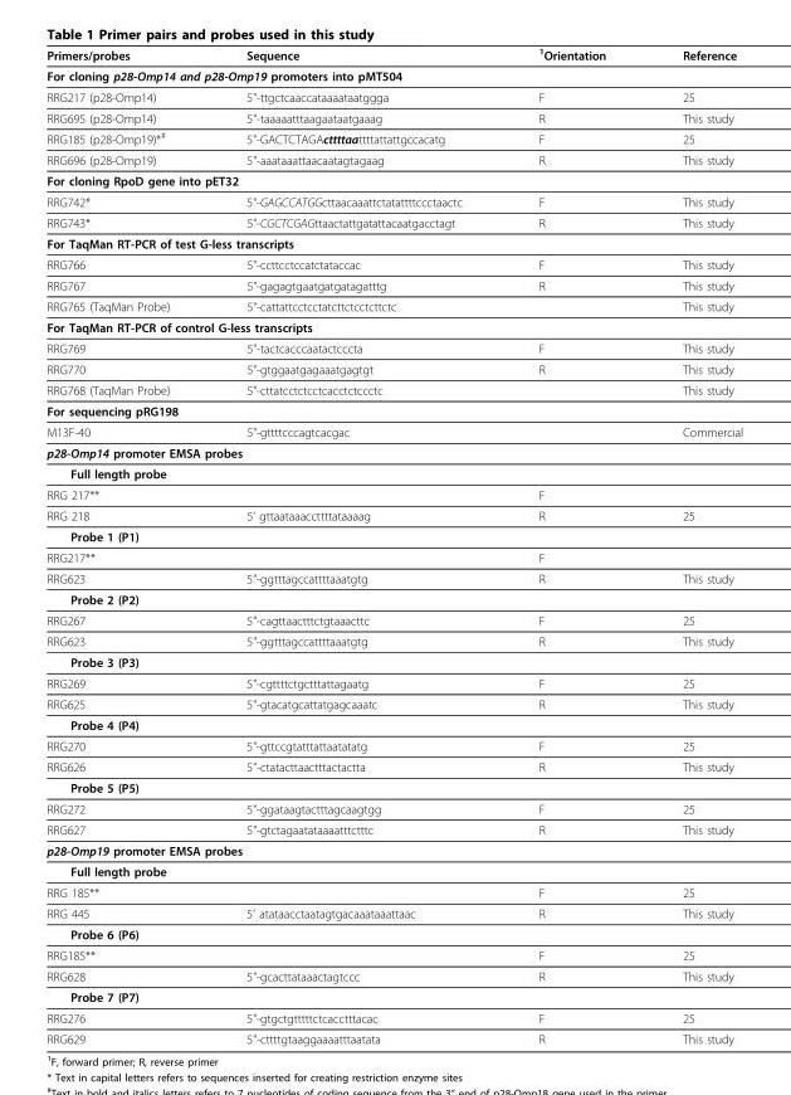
<table><thead><tr><td>Primers/probes</td><td>Sequence</td><td><sup>1</sup>Orientation</td><td>Reference</td></tr></thead><tbody><tr><td colspan="4">For cloning p28-Omp14 and p28-Omp19 promoters into pMT504</td></tr><tr><td>RRG217 (p28-Omp14)</td><td>5&quot;-ttgctcaaccataaaataatggga</td><td>F</td><td>25</td></tr><tr><td>RRG695 (p28-Omp14)</td><td>5&quot;-taaaaatttaagaataatgaaag</td><td>R</td><td>This study</td></tr><tr><td>RRG185 (p28-Omp19)*<sup>#</sup></td><td>5&quot;-GACTCTAGActtttaattttattattgccacatg</td><td>F</td><td>25</td></tr><tr><td>RRG696 (p28-Omp19)</td><td>5&quot;-aaataaattaacaatagtagaag</td><td>R</td><td>This study</td></tr><tr><td colspan="4">For cloning RpoD gene into pET32</td></tr><tr><td>RRG742*</td><td>5&quot;-GAGCCATGGcttaacaaattctatattttccctaactc</td><td>F</td><td>This study</td></tr><tr><td>RRG743*</td><td>5&quot;-CGCTCGAGttaactattgatattacaatgacctagt</td><td>R</td><td>This study</td></tr><tr><td colspan="4">For TaqMan RT-PCR of test G-less transcripts</td></tr><tr><td>RRG766</td><td>5&quot;-ccttcctccatctataccac</td><td>F</td><td>This study</td></tr><tr><td>RRG767</td><td>5&quot;-gagagtgaatgatgatagatttg</td><td>R</td><td>This study</td></tr><tr><td>RRG765 (TaqMan Probe)</td><td>5&quot;-cattattcctcctatcttctcctcttctc</td><td></td><td>This study</td></tr><tr><td colspan="4">For TaqMan RT-PCR of control G-less transcripts</td></tr><tr><td>RRG769</td><td>5&quot;-tactcacccaatactcccta</td><td>F</td><td>This study</td></tr><tr><td>RRG770</td><td>5&quot;-gtggaatgagaaatgagtgt</td><td>R</td><td>This study</td></tr><tr><td>RRG768 (TaqMan Probe)</td><td>5&quot;-cttatcctctcctcacctctccctc</td><td></td><td>This study</td></tr><tr><td colspan="4">For sequencing pRG198</td></tr><tr><td>M13F-40</td><td>5&quot;-gttttcccagtcacgac</td><td></td><td>Commercial</td></tr><tr><td colspan="4">p28-Omp14 promoter EMSA probes</td></tr><tr><td colspan="4">Full length probe</td></tr><tr><td>RRG 217**</td><td></td><td>F</td><td></td></tr><tr><td>RRG 218</td><td>5’ gttaataaaccttttataaaag</td><td>R</td><td>25</td></tr><tr><td colspan="4">Probe 1 (P1)</td></tr><tr><td>RRG217**</td><td></td><td>F</td><td></td></tr><tr><td>RRG623</td><td>5&quot;-ggtttagccattttaaatgtg</td><td>R</td><td>This study</td></tr><tr><td colspan="4">Probe 2 (P2)</td></tr><tr><td>RRG267</td><td>5&quot;-cagttaactttctgtaaacttc</td><td>F</td><td>25</td></tr><tr><td>RRG623</td><td>5&quot;-ggtttagccattttaaatgtg</td><td>R</td><td>This study</td></tr><tr><td colspan="4">Probe 3 (P3)</td></tr><tr><td>RRG269</td><td>5&quot;-cgttttctgctttattagaatg</td><td>F</td><td>25</td></tr><tr><td>RRG625</td><td>5&quot;-gtacatgcattatgagcaaatc</td><td>R</td><td>This study</td></tr><tr><td colspan="4">Probe 4 (P4)</td></tr><tr><td>RRG270</td><td>5&quot;-gttccgtatttattaatatatg</td><td>F</td><td>25</td></tr><tr><td>RRG626</td><td>5&quot;-ctatacttaactttactactta</td><td>R</td><td>This study</td></tr><tr><td colspan="4">Probe 5 (P5)</td></tr><tr><td>RRG272</td><td>5&quot;-ggataagtactttagcaagtgg</td><td>F</td><td>25</td></tr><tr><td>RRG627</td><td>5&quot;-gtctagaatataaaatttctttc</td><td>R</td><td>This study</td></tr><tr><td colspan="4">p28-Omp19 promoter EMSA probes</td></tr><tr><td colspan="4">Full length probe</td></tr><tr><td>RRG 185**</td><td></td><td>F</td><td>25</td></tr><tr><td>RRG 445</td><td>5’ atataacctaatagtgacaaataaattaac</td><td>R</td><td>This study</td></tr><tr><td colspan="4">Probe 6 (P6)</td></tr><tr><td>RRG185**</td><td></td><td>F</td><td>25</td></tr><tr><td>RRG628</td><td>5&quot;-gcacttataaactagtccc</td><td>R</td><td>This study</td></tr><tr><td colspan="4">Probe 7 (P7)</td></tr><tr><td>RRG276</td><td>5&quot;-gtgctgtttttctcacctttacac</td><td>F</td><td>25</td></tr><tr><td>RRG629</td><td>5&quot;-cttttgtaaggaaaatttaatata</td><td>R</td><td>This study</td></tr></tbody></table>